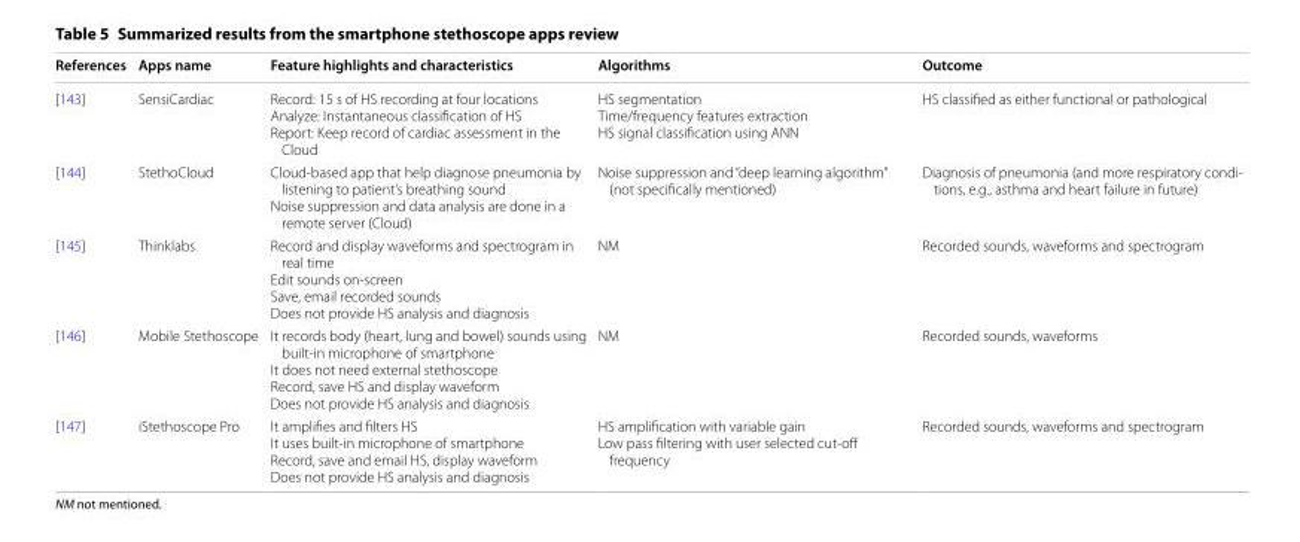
<table><thead><tr><td>References</td><td>Apps name</td><td>Feature highlights and characteristics</td><td>Algorithms</td><td>Outcome</td></tr></thead><tbody><tr><td>[143]</td><td>SensiCardiac</td><td>Record: 15 s of HS recording at four locations Analyze: Instantaneous classification of HS Report: Keep record of cardiac assessment in the Cloud</td><td>HS segmentation Time/frequency features extraction HS signal classification using ANN</td><td>HS classified as either functional or pathological</td></tr><tr><td>[144]</td><td>StethoCloud</td><td>Cloud-based app that help diagnose pneumonia by listening to patient’s breathing sound Noise suppression and data analysis are done in a remote server (Cloud)</td><td>Noise suppression and “deep learning algorithm” (not specifically mentioned)</td><td>Diagnosis of pneumonia (and more respiratory condi- tions, e.g., asthma and heart failure in future)</td></tr><tr><td>[145]</td><td>Thinklabs</td><td>Record and display waveforms and spectrogram in real time Edit sounds on-screen Save, email recorded sounds Does not provide HS analysis and diagnosis</td><td>NM</td><td>Recorded sounds, waveforms and spectrogram</td></tr><tr><td>[146]</td><td>Mobile Stethoscope</td><td>It records body (heart, lung and bowel) sounds using built-in microphone of smartphone It does not need external stethoscope Record, save HS and display waveform Does not provide HS analysis and diagnosis</td><td>NM</td><td>Recorded sounds, waveforms</td></tr><tr><td>[147]</td><td>iStethoscope Pro</td><td>It amplifies and filters HS It uses built-in microphone of smartphone Record, save and email HS, display waveform Does not provide HS analysis and diagnosis</td><td>HS amplification with variable gain Low pass filtering with user selected cut-off frequency</td><td>Recorded sounds, waveforms and spectrogram</td></tr></tbody></table>